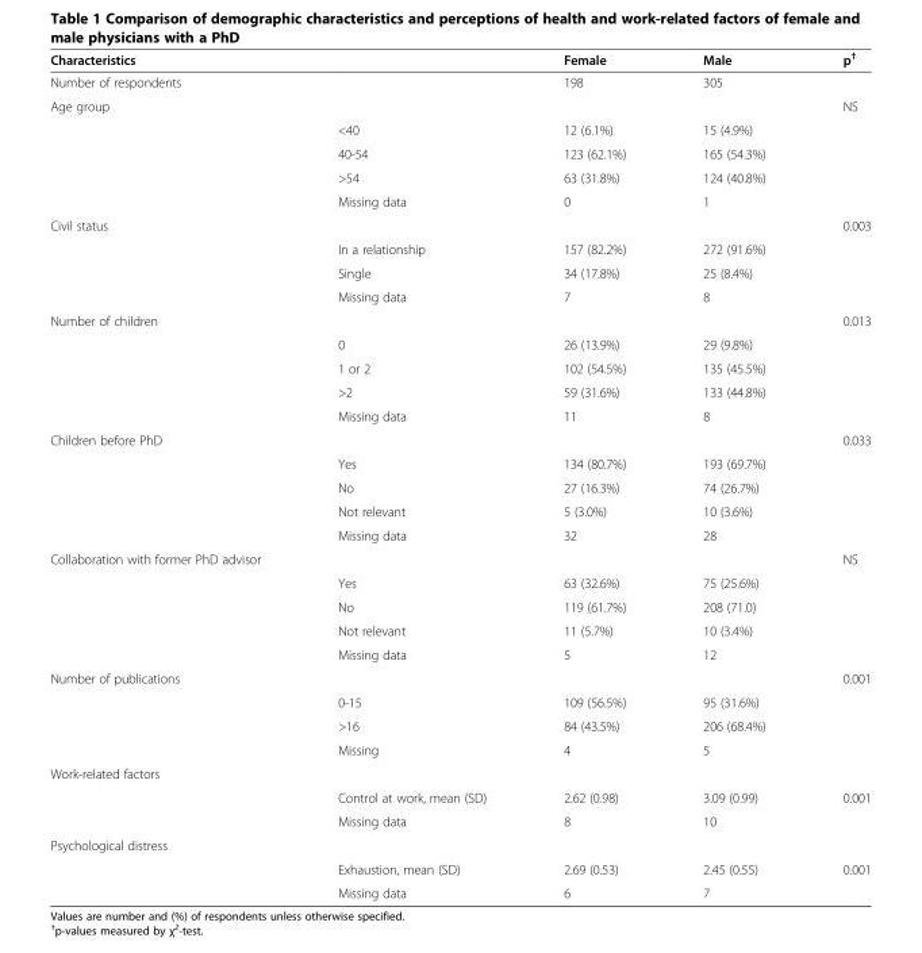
<table><thead><tr><td>Characteristics</td><td></td><td>Female</td><td>Male</td><td>p<sup>†</sup></td></tr></thead><tbody><tr><td>Number of respondents</td><td></td><td>198</td><td>305</td><td></td></tr><tr><td rowspan="5">Age group</td><td></td><td></td><td></td><td>NS</td></tr><tr><td>&lt;40</td><td>12 (6.1%)</td><td>15 (4.9%)</td><td></td></tr><tr><td>40-54</td><td>123 (62.1%)</td><td>165 (54.3%)</td><td></td></tr><tr><td>&gt;54</td><td>63 (31.8%)</td><td>124 (40.8%)</td><td></td></tr><tr><td>Missing data</td><td>0</td><td>1</td><td></td></tr><tr><td rowspan="4">Civil status</td><td></td><td></td><td></td><td>0.003</td></tr><tr><td>In a relationship</td><td>157 (82.2%)</td><td>272 (91.6%)</td><td></td></tr><tr><td>Single</td><td>34 (17.8%)</td><td>25 (8.4%)</td><td></td></tr><tr><td>Missing data</td><td>7</td><td>8</td><td></td></tr><tr><td rowspan="5">Number of children</td><td></td><td></td><td></td><td>0.013</td></tr><tr><td>0</td><td>26 (13.9%)</td><td>29 (9.8%)</td><td></td></tr><tr><td>1 or 2</td><td>102 (54.5%)</td><td>135 (45.5%)</td><td></td></tr><tr><td>&gt;2</td><td>59 (31.6%)</td><td>133 (44.8%)</td><td></td></tr><tr><td>Missing data</td><td>11</td><td>8</td><td></td></tr><tr><td rowspan="5">Children before PhD</td><td></td><td></td><td></td><td>0.033</td></tr><tr><td>Yes</td><td>134 (80.7%)</td><td>193 (69.7%)</td><td></td></tr><tr><td>No</td><td>27 (16.3%)</td><td>74 (26.7%)</td><td></td></tr><tr><td>Not relevant</td><td>5 (3.0%)</td><td>10 (3.6%)</td><td></td></tr><tr><td>Missing data</td><td>32</td><td>28</td><td></td></tr><tr><td rowspan="5">Collaboration with former PhD advisor</td><td></td><td></td><td></td><td>NS</td></tr><tr><td>Yes</td><td>63 (32.6%)</td><td>75 (25.6%)</td><td></td></tr><tr><td>No</td><td>119 (61.7%)</td><td>208 (71.0)</td><td></td></tr><tr><td>Not relevant</td><td>11 (5.7%)</td><td>10 (3.4%)</td><td></td></tr><tr><td>Missing data</td><td>5</td><td>12</td><td></td></tr><tr><td rowspan="4">Number of publications</td><td></td><td></td><td></td><td>0.001</td></tr><tr><td>0-15</td><td>109 (56.5%)</td><td>95 (31.6%)</td><td></td></tr><tr><td>&gt;16</td><td>84 (43.5%)</td><td>206 (68.4%)</td><td></td></tr><tr><td>Missing</td><td>4</td><td>5</td><td></td></tr><tr><td colspan="5">Work-related factors</td></tr><tr><td></td><td>Control at work, mean (SD)</td><td>2.62 (0.98)</td><td>3.09 (0.99)</td><td>0.001</td></tr><tr><td></td><td>Missing data</td><td>8</td><td>10</td><td></td></tr><tr><td colspan="5">Psychological distress</td></tr><tr><td></td><td>Exhaustion, mean (SD)</td><td>2.69 (0.53)</td><td>2.45 (0.55)</td><td>0.001</td></tr><tr><td></td><td>Missing data</td><td>6</td><td>7</td><td></td></tr></tbody></table>